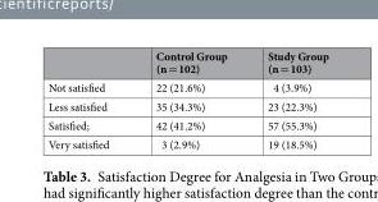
<table><thead><tr><td></td><td>Control Group (n = 102)</td><td>Study Group (n = 103)</td></tr></thead><tbody><tr><td>Not satisfied</td><td>22 (21.6%)</td><td>4 (3.9%)</td></tr><tr><td>Less satisfied</td><td>35 (34.3%)</td><td>23 (22.3%)</td></tr><tr><td>Satisfied;</td><td>42 (41.2%)</td><td>57 (55.3%)</td></tr><tr><td>Very satisfied</td><td>3 (2.9%)</td><td>19 (18.5%)</td></tr></tbody></table>